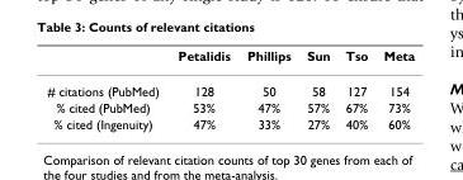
<table><thead><tr><td></td><td>Petalidis</td><td>Phillips</td><td>Sun</td><td>Tso</td><td>Meta</td></tr></thead><tbody><tr><td># citations (PubMed)</td><td>128</td><td>50</td><td>58</td><td>127</td><td>154</td></tr><tr><td>% cited (PubMed)</td><td>53%</td><td>47%</td><td>57%</td><td>67%</td><td>73%</td></tr><tr><td>% cited (Ingenuity)</td><td>47%</td><td>33%</td><td>27%</td><td>40%</td><td>60%</td></tr></tbody></table>